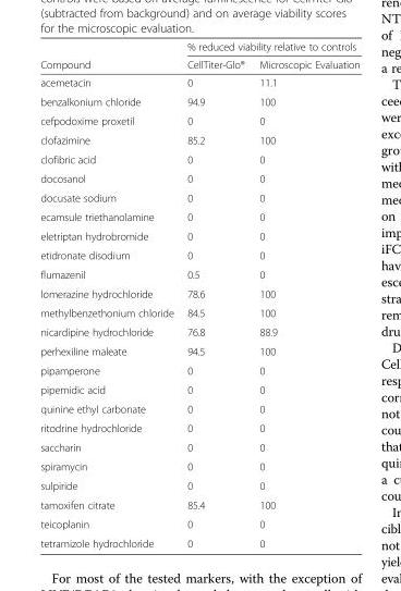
<table><thead><tr><td rowspan="2">Compound</td><td colspan="2">% reduced viability relative to controls</td></tr><tr><td>CellTiter-Glo®</td><td>Microscopic Evaluation</td></tr></thead><tbody><tr><td>acemetacin</td><td>0</td><td>11.1</td></tr><tr><td>benzalkonium chloride</td><td>94.9</td><td>100</td></tr><tr><td>cefpodoxime proxetil</td><td>0</td><td>0</td></tr><tr><td>clofazimine</td><td>85.2</td><td>100</td></tr><tr><td>clofibric acid</td><td>0</td><td>0</td></tr><tr><td>docosanol</td><td>0</td><td>0</td></tr><tr><td>docusate sodium</td><td>0</td><td>0</td></tr><tr><td>ecamsule triethanolamine</td><td>0</td><td>0</td></tr><tr><td>eletriptan hydrobromide</td><td>0</td><td>0</td></tr><tr><td>etidronate disodium</td><td>0</td><td>0</td></tr><tr><td>flumazenil</td><td>0.5</td><td>0</td></tr><tr><td>lomerazine hydrochloride</td><td>78.6</td><td>100</td></tr><tr><td>methylbenzethonium chloride</td><td>84.5</td><td>100</td></tr><tr><td>nicardipine hydrochloride</td><td>76.8</td><td>88.9</td></tr><tr><td>perhexiline maleate</td><td>94.5</td><td>100</td></tr><tr><td>pipamperone</td><td>0</td><td>0</td></tr><tr><td>pipemidic acid</td><td>0</td><td>0</td></tr><tr><td>quinine ethyl carbonate</td><td>0</td><td>0</td></tr><tr><td>ritodrine hydrochloride</td><td>0</td><td>0</td></tr><tr><td>saccharin</td><td>0</td><td>0</td></tr><tr><td>spiramycin</td><td>0</td><td>0</td></tr><tr><td>sulpiride</td><td>0</td><td>0</td></tr><tr><td>tamoxifen citrate</td><td>85.4</td><td>100</td></tr><tr><td>teicoplanin</td><td>0</td><td>0</td></tr><tr><td>tetramizole hydrochloride</td><td>0</td><td>0</td></tr></tbody></table>